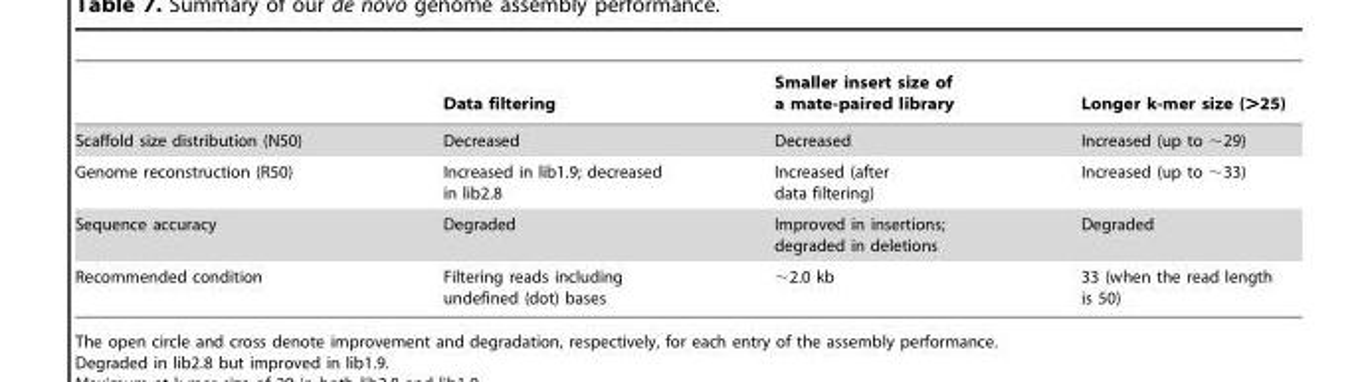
<table><thead><tr><td></td><td>Data filtering</td><td>Smaller insert size of a mate-paired library</td><td>Longer k-mer size (&gt;25)</td></tr></thead><tbody><tr><td>Scaffold size distribution (N50)</td><td>Decreased</td><td>Decreased</td><td>Increased (up to ∼29)</td></tr><tr><td>Genome reconstruction (R50)</td><td>Increased in lib1.9; decreased in lib2.8</td><td>Increased (after data filtering)</td><td>Increased (up to ∼33)</td></tr><tr><td>Sequence accuracy</td><td>Degraded</td><td>Improved in insertions; degraded in deletions</td><td>Degraded</td></tr><tr><td>Recommended condition</td><td>Filtering reads including undefined (dot) bases</td><td>∼2.0 kb</td><td>33 (when the read length is 50)</td></tr></tbody></table>